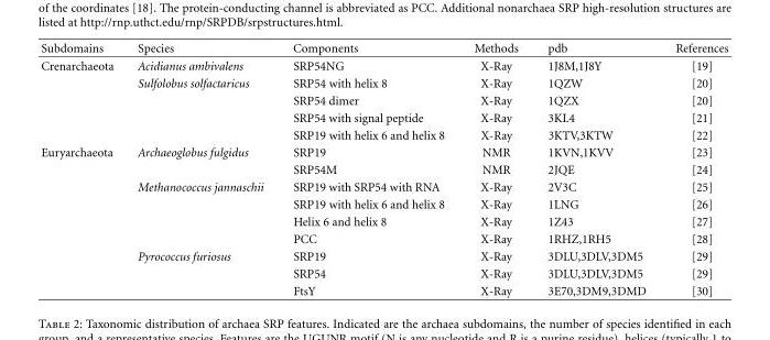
<table><thead><tr><td>Subdomains</td><td>Species</td><td>Components</td><td>Methods</td><td>pdb</td><td>References</td></tr></thead><tbody><tr><td rowspan="5">Crenarchaeota</td><td>Acidianus ambivalens</td><td>SRP54NG</td><td>X-Ray</td><td>1J8M,1J8Y</td><td>[19]</td></tr><tr><td>Sulfolobus solfactaricus</td><td>SRP54 with helix 8</td><td>X-Ray</td><td>1QZW</td><td>[20]</td></tr><tr><td></td><td>SRP54 dimer</td><td>X-Ray</td><td>1QZX</td><td>[20]</td></tr><tr><td></td><td>SRP54 with signal peptide</td><td>X-Ray</td><td>3KL4</td><td>[21]</td></tr><tr><td></td><td>SRP19 with helix 6 and helix 8</td><td>X-Ray</td><td>3KTV,3KTW</td><td>[22]</td></tr><tr><td rowspan="9">Euryarchaeota</td><td>Archaeoglobus fulgidus</td><td>SRP19</td><td>NMR</td><td>1KVN,1KVV</td><td>[23]</td></tr><tr><td></td><td>SRP54M</td><td>NMR</td><td>2JQE</td><td>[24]</td></tr><tr><td>Methanococcus jannaschii</td><td>SRP19 with SRP54 with RNA</td><td>X-Ray</td><td>2V3C</td><td>[25]</td></tr><tr><td></td><td>SRP19 with helix 6 and helix 8</td><td>X-Ray</td><td>1LNG</td><td>[26]</td></tr><tr><td></td><td>Helix 6 and helix 8</td><td>X-Ray</td><td>1Z43</td><td>[27]</td></tr><tr><td></td><td>PCC</td><td>X-Ray</td><td>1RHZ,1RH5</td><td>[28]</td></tr><tr><td>Pyrococcus furiosus</td><td>SRP19</td><td>X-Ray</td><td>3DLU,3DLV,3DM5</td><td>[29]</td></tr><tr><td></td><td>SRP54</td><td>X-Ray</td><td>3DLU,3DLV,3DM5</td><td>[29]</td></tr><tr><td></td><td>FtsY</td><td>X-Ray</td><td>3E70,3DM9,3DMD</td><td>[30]</td></tr></tbody></table>